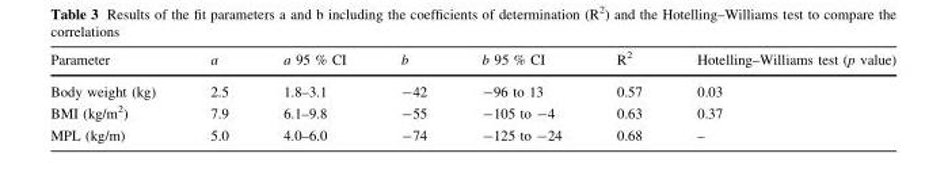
<table><thead><tr><td>Parameter</td><td>a</td><td>a 95 % CI</td><td>b</td><td>b 95 % CI</td><td>R<sup>2</sup></td><td>Hotelling–Williams test (p value)</td></tr></thead><tbody><tr><td>Body weight (kg)</td><td>2.5</td><td>1.8–3.1</td><td>-42</td><td>-96 to 13</td><td>0.57</td><td>0.03</td></tr><tr><td>BMI (kg/m<sup>2</sup>)</td><td>7.9</td><td>6.1–9.8</td><td>-55</td><td>-105 to -4</td><td>0.63</td><td>0.37</td></tr><tr><td>MPL (kg/m)</td><td>5.0</td><td>4.0–6.0</td><td>-74</td><td>-125 to -24</td><td>0.68</td><td>–</td></tr></tbody></table>